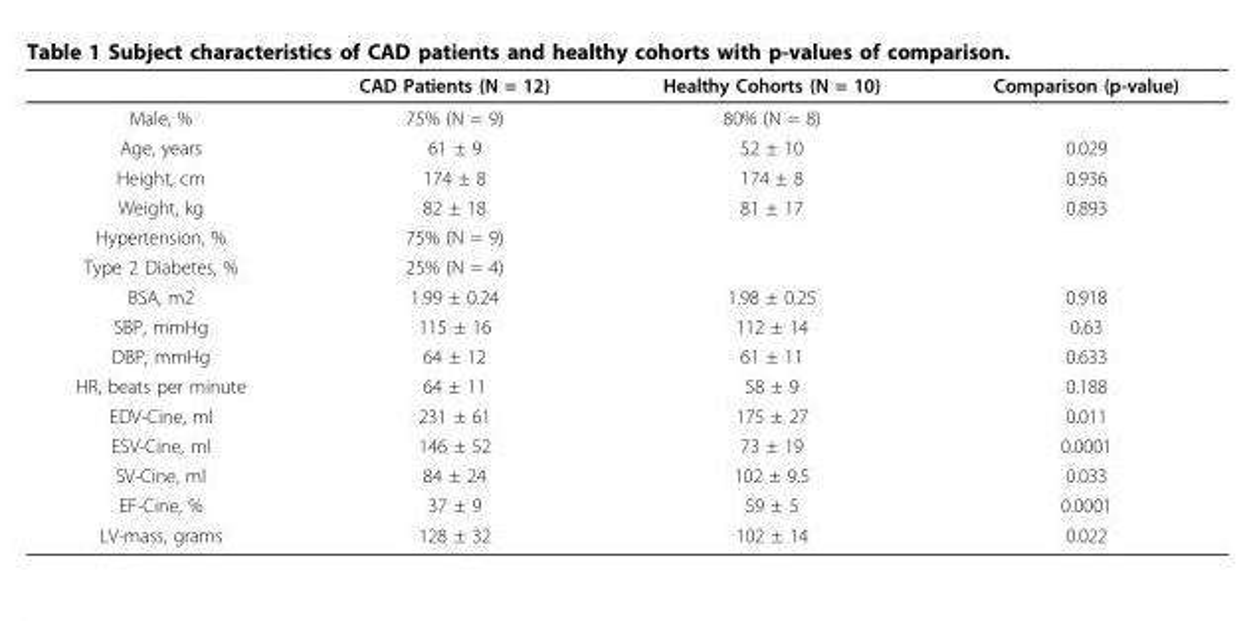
<table><thead><tr><td></td><td>CAD Patients (N = 12)</td><td>Healthy Cohorts (N = 10)</td><td>Comparison (p-value)</td></tr></thead><tbody><tr><td>Male, %</td><td>75% (N = 9)</td><td>80% (N = 8)</td><td></td></tr><tr><td>Age, years</td><td>61 ± 9</td><td>52 ± 10</td><td>0.029</td></tr><tr><td>Height, cm</td><td>174 ± 8</td><td>174 ± 8</td><td>0.936</td></tr><tr><td>Weight, kg</td><td>82 ± 18</td><td>81 ± 17</td><td>0.893</td></tr><tr><td>Hypertension, %</td><td>75% (N = 9)</td><td></td><td></td></tr><tr><td>Type 2 Diabetes, %</td><td>25% (N = 4)</td><td></td><td></td></tr><tr><td>BSA, m2</td><td>1.99 ± 0.24</td><td>1.98 ± 0.25</td><td>0.918</td></tr><tr><td>SBP, mmHg</td><td>115 ± 16</td><td>112 ± 14</td><td>0.63</td></tr><tr><td>DBP, mmHg</td><td>64 ± 12</td><td>61 ± 11</td><td>0.633</td></tr><tr><td>HR, beats per minute</td><td>64 ± 11</td><td>58 ± 9</td><td>0.188</td></tr><tr><td>EDV-Cine, ml</td><td>231 ± 61</td><td>175 ± 27</td><td>0.011</td></tr><tr><td>ESV-Cine, ml</td><td>146 ± 52</td><td>73 ± 19</td><td>0.0001</td></tr><tr><td>SV-Cine, ml</td><td>84 ± 24</td><td>102 ± 9.5</td><td>0.033</td></tr><tr><td>EF-Cine, %</td><td>37 ± 9</td><td>59 ± 5</td><td>0.0001</td></tr><tr><td>LV-mass, grams</td><td>128 ± 32</td><td>102 ± 14</td><td>0.022</td></tr></tbody></table>